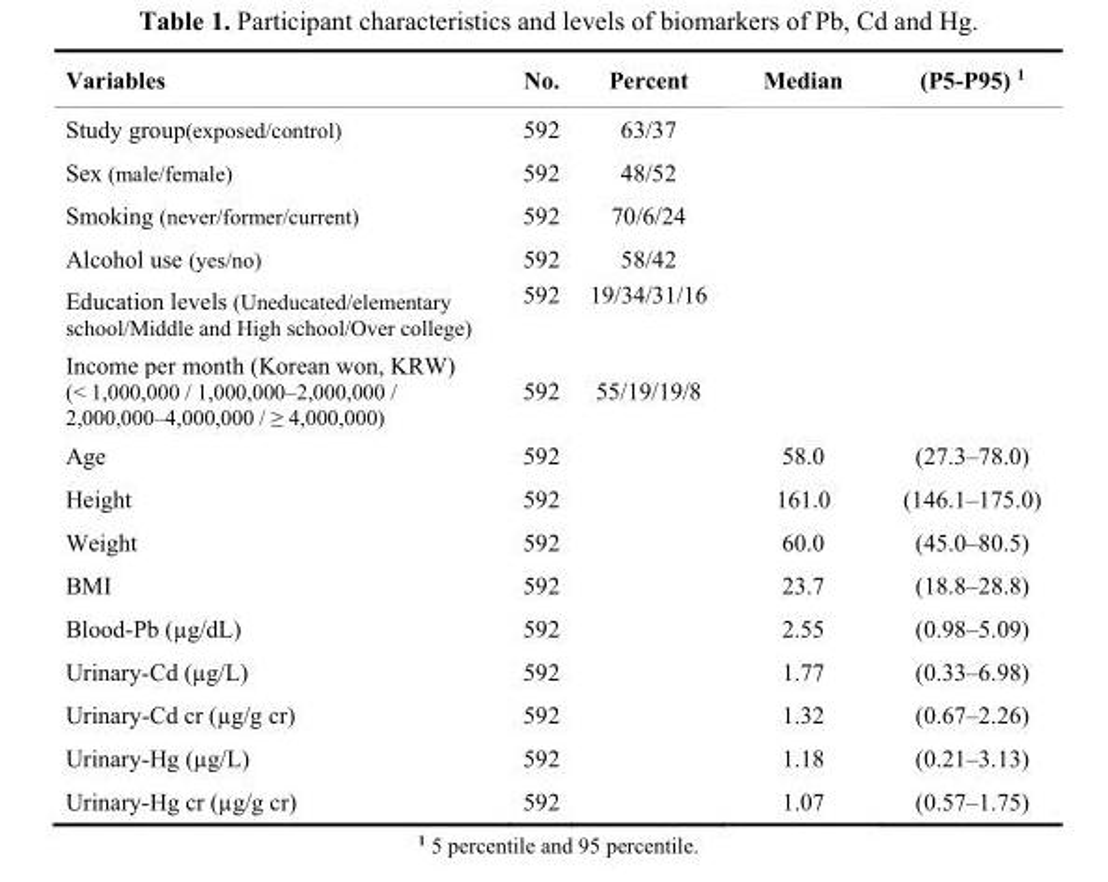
<table><thead><tr><td>Variables</td><td>No.</td><td>Percent</td><td>Median</td><td>(P5-P95) <sup>1</sup></td></tr></thead><tbody><tr><td>Study group(exposed/control)</td><td>592</td><td>63/37</td><td></td><td></td></tr><tr><td>Sex (male/female)</td><td>592</td><td>48/52</td><td></td><td></td></tr><tr><td>Smoking (never/former/current)</td><td>592</td><td>70/6/24</td><td></td><td></td></tr><tr><td>Alcohol use (yes/no)</td><td>592</td><td>58/42</td><td></td><td></td></tr><tr><td>Education levels (Uneducated/elementary school/Middle and High school/Over college)</td><td>592</td><td>19/34/31/16</td><td></td><td></td></tr><tr><td>Income per month (Korean won, KRW) (&lt; 1,000,000 / 1,000,000–2,000,000 / 2,000,000–4,000,000 / ≥ 4,000,000)</td><td>592</td><td>55/19/19/8</td><td></td><td></td></tr><tr><td>Age</td><td>592</td><td></td><td>58.0</td><td>(27.3–78.0)</td></tr><tr><td>Height</td><td>592</td><td></td><td>161.0</td><td>(146.1–175.0)</td></tr><tr><td>Weight</td><td>592</td><td></td><td>60.0</td><td>(45.0–80.5)</td></tr><tr><td>BMI</td><td>592</td><td></td><td>23.7</td><td>(18.8–28.8)</td></tr><tr><td>Blood-Pb (µg/dL)</td><td>592</td><td></td><td>2.55</td><td>(0.98–5.09)</td></tr><tr><td>Urinary-Cd (µg/L)</td><td>592</td><td></td><td>1.77</td><td>(0.33–6.98)</td></tr><tr><td>Urinary-Cd cr (µg/g cr)</td><td>592</td><td></td><td>1.32</td><td>(0.67–2.26)</td></tr><tr><td>Urinary-Hg (µg/L)</td><td>592</td><td></td><td>1.18</td><td>(0.21–3.13)</td></tr><tr><td>Urinary-Hg cr (µg/g cr)</td><td>592</td><td></td><td>1.07</td><td>(0.57–1.75)</td></tr></tbody></table>